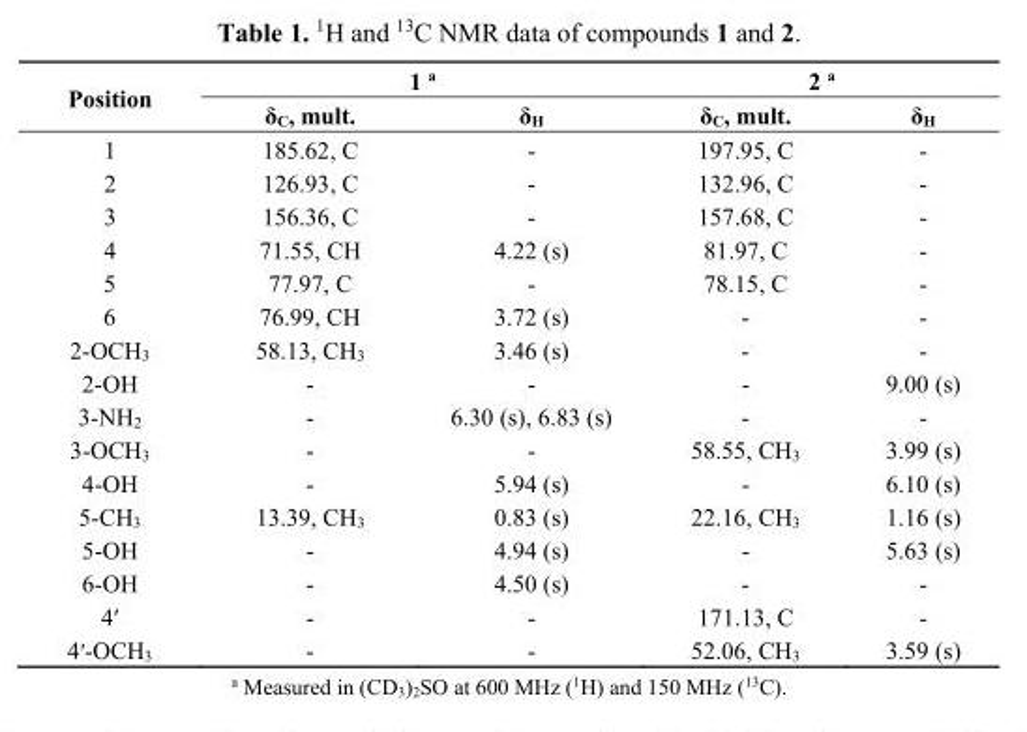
<table><thead><tr><td rowspan="2">Position</td><td colspan="2">1 <sup>a</sup></td><td colspan="2">2 <sup>a</sup></td></tr><tr><td>δ<sub>C</sub>, mult.</td><td>δ<sub>H</sub></td><td>δ<sub>C</sub>, mult.</td><td>δ<sub>H</sub></td></tr></thead><tbody><tr><td>1</td><td>185.62, C</td><td>-</td><td>197.95, C</td><td>-</td></tr><tr><td>2</td><td>126.93, C</td><td>-</td><td>132.96, C</td><td>-</td></tr><tr><td>3</td><td>156.36, C</td><td>-</td><td>157.68, C</td><td>-</td></tr><tr><td>4</td><td>71.55, CH</td><td>4.22 (s)</td><td>81.97, C</td><td>-</td></tr><tr><td>5</td><td>77.97, C</td><td>-</td><td>78.15, C</td><td>-</td></tr><tr><td>6</td><td>76.99, CH</td><td>3.72 (s)</td><td>-</td><td>-</td></tr><tr><td>2-OCH<sub>3</sub></td><td>58.13, CH<sub>3</sub></td><td>3.46 (s)</td><td>-</td><td>-</td></tr><tr><td>2-OH</td><td>-</td><td>-</td><td>-</td><td>9.00 (s)</td></tr><tr><td>3-NH<sub>2</sub></td><td>-</td><td>6.30 (s), 6.83 (s)</td><td>-</td><td>-</td></tr><tr><td>3-OCH<sub>3</sub></td><td>-</td><td>-</td><td>58.55, CH<sub>3</sub></td><td>3.99 (s)</td></tr><tr><td>4-OH</td><td>-</td><td>5.94 (s)</td><td>-</td><td>6.10 (s)</td></tr><tr><td>5-CH<sub>3</sub></td><td>13.39, CH<sub>3</sub></td><td>0.83 (s)</td><td>22.16, CH<sub>3</sub></td><td>1.16 (s)</td></tr><tr><td>5-OH</td><td>-</td><td>4.94 (s)</td><td>-</td><td>5.63 (s)</td></tr><tr><td>6-OH</td><td>-</td><td>4.50 (s)</td><td>-</td><td>-</td></tr><tr><td>4′</td><td>-</td><td>-</td><td>171.13, C</td><td>-</td></tr><tr><td>4′-OCH<sub>3</sub></td><td>-</td><td>-</td><td>52.06, CH<sub>3</sub></td><td>3.59 (s)</td></tr></tbody></table>